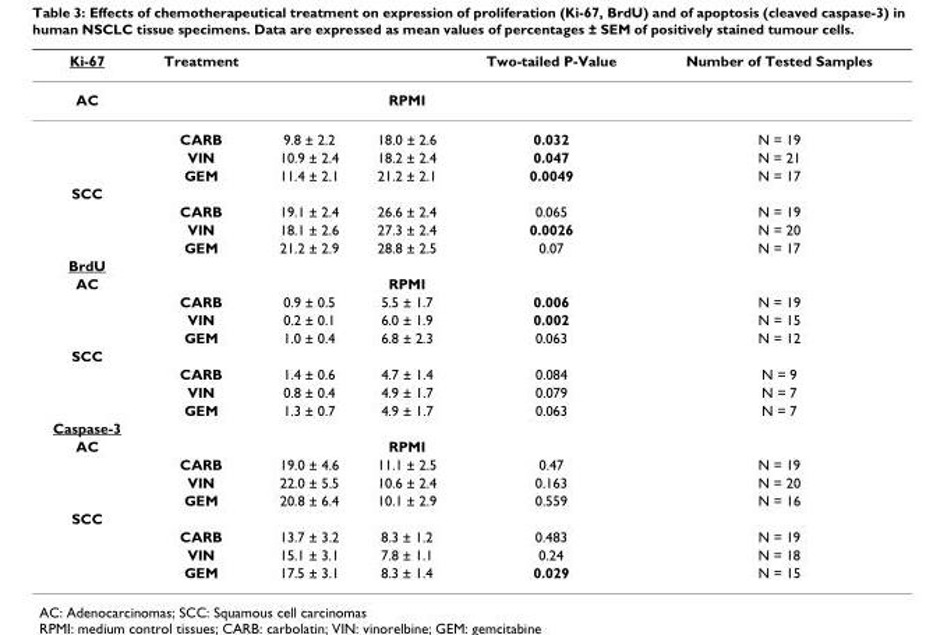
<table><thead><tr><td>Ki-67</td><td>Treatment</td><td></td><td></td><td>Two-tailed P-Value</td><td>Number of Tested Samples</td></tr></thead><tbody><tr><td rowspan="4">AC</td><td></td><td></td><td>RPMI</td><td></td><td></td></tr><tr><td>CARB</td><td>9.8 ± 2.2</td><td>18.0 ± 2.6</td><td>0.032</td><td>N = 19</td></tr><tr><td>VIN</td><td>10.9 ± 2.4</td><td>18.2 ± 2.4</td><td>0.047</td><td>N = 21</td></tr><tr><td>GEM</td><td>11.4 ± 2.1</td><td>21.2 ± 2.1</td><td>0.0049</td><td>N = 17</td></tr><tr><td colspan="6">SCC</td></tr><tr><td></td><td>CARB</td><td>19.1 ± 2.4</td><td>26.6 ± 2.4</td><td>0.065</td><td>N = 19</td></tr><tr><td></td><td>VIN</td><td>18.1 ± 2.6</td><td>27.3 ± 2.4</td><td>0.0026</td><td>N = 20</td></tr><tr><td></td><td>GEM</td><td>21.2 ± 2.9</td><td>28.8 ± 2.5</td><td>0.07</td><td>N = 17</td></tr><tr><td colspan="6">BrdU</td></tr><tr><td rowspan="4">AC</td><td></td><td></td><td>RPMI</td><td></td><td></td></tr><tr><td>CARB</td><td>0.9 ± 0.5</td><td>5.5 ± 1.7</td><td>0.006</td><td>N = 19</td></tr><tr><td>VIN</td><td>0.2 ± 0.1</td><td>6.0 ± 1.9</td><td>0.002</td><td>N = 15</td></tr><tr><td>GEM</td><td>1.0 ± 0.4</td><td>6.8 ± 2.3</td><td>0.063</td><td>N = 12</td></tr><tr><td colspan="6">SCC</td></tr><tr><td></td><td>CARB</td><td>1.4 ± 0.6</td><td>4.7 ± 1.4</td><td>0.084</td><td>N = 9</td></tr><tr><td></td><td>VIN</td><td>0.8 ± 0.4</td><td>4.9 ± 1.7</td><td>0.079</td><td>N = 7</td></tr><tr><td></td><td>GEM</td><td>1.3 ± 0.7</td><td>4.9 ± 1.7</td><td>0.063</td><td>N = 7</td></tr><tr><td colspan="6">Caspase-3</td></tr><tr><td rowspan="4">AC</td><td></td><td></td><td>RPMI</td><td></td><td></td></tr><tr><td>CARB</td><td>19.0 ± 4.6</td><td>11.1 ± 2.5</td><td>0.47</td><td>N = 19</td></tr><tr><td>VIN</td><td>22.0 ± 5.5</td><td>10.6 ± 2.4</td><td>0.163</td><td>N = 20</td></tr><tr><td>GEM</td><td>20.8 ± 6.4</td><td>10.1 ± 2.9</td><td>0.559</td><td>N = 16</td></tr><tr><td colspan="6">SCC</td></tr><tr><td></td><td>CARB</td><td>13.7 ± 3.2</td><td>8.3 ± 1.2</td><td>0.483</td><td>N = 19</td></tr><tr><td></td><td>VIN</td><td>15.1 ± 3.1</td><td>7.8 ± 1.1</td><td>0.24</td><td>N = 18</td></tr><tr><td></td><td>GEM</td><td>17.5 ± 3.1</td><td>8.3 ± 1.4</td><td>0.029</td><td>N = 15</td></tr></tbody></table>